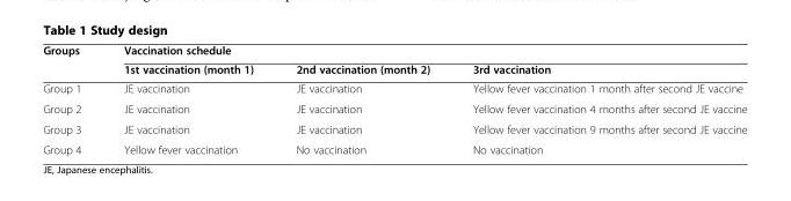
<table><thead><tr><td rowspan="2">Groups</td><td colspan="3">Vaccination schedule</td></tr><tr><td>1st vaccination (month 1)</td><td>2nd vaccination (month 2)</td><td>3rd vaccination</td></tr></thead><tbody><tr><td>Group 1</td><td>JE vaccination</td><td>JE vaccination</td><td>Yellow fever vaccination 1 month after second JE vaccine</td></tr><tr><td>Group 2</td><td>JE vaccination</td><td>JE vaccination</td><td>Yellow fever vaccination 4 months after second JE vaccine</td></tr><tr><td>Group 3</td><td>JE vaccination</td><td>JE vaccination</td><td>Yellow fever vaccination 9 months after second JE vaccine</td></tr><tr><td>Group 4</td><td>Yellow fever vaccination</td><td>No vaccination</td><td>No vaccination</td></tr></tbody></table>